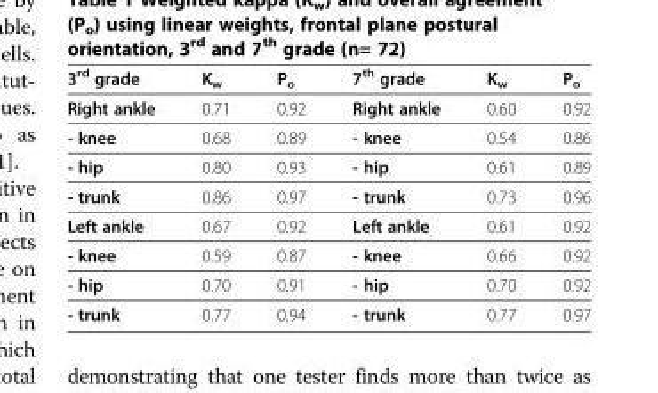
<table><thead><tr><td>3<sup>rd</sup> grade</td><td>K<sub>w</sub></td><td>P<sub>o</sub></td><td>7<sup>th</sup> grade</td><td>K<sub>w</sub></td><td>P<sub>o</sub></td></tr></thead><tbody><tr><td>Right ankle</td><td>0.71</td><td>0.92</td><td>Right ankle</td><td>0.60</td><td>0.92</td></tr><tr><td>- knee</td><td>0.68</td><td>0.89</td><td>- knee</td><td>0.54</td><td>0.86</td></tr><tr><td>- hip</td><td>0.80</td><td>0.93</td><td>- hip</td><td>0.61</td><td>0.89</td></tr><tr><td>- trunk</td><td>0.86</td><td>0.97</td><td>- trunk</td><td>0.73</td><td>0.96</td></tr><tr><td>Left ankle</td><td>0.67</td><td>0.92</td><td>Left ankle</td><td>0.61</td><td>0.92</td></tr><tr><td>- knee</td><td>0.59</td><td>0.87</td><td>- knee</td><td>0.66</td><td>0.92</td></tr><tr><td>- hip</td><td>0.70</td><td>0.91</td><td>- hip</td><td>0.70</td><td>0.92</td></tr><tr><td>- trunk</td><td>0.77</td><td>0.94</td><td>- trunk</td><td>0.77</td><td>0.97</td></tr></tbody></table>